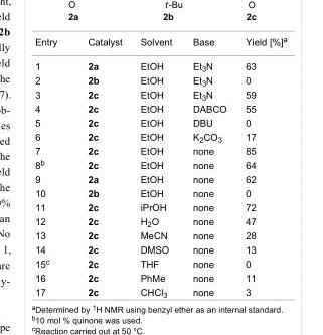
<table><tbody><tr><td>Entry</td><td>Catalyst</td><td>Solvent</td><td>Base</td><td>Yield [%]<sup>a</sup></td></tr><tr><td>1</td><td>2a</td><td>EtOH</td><td>Et<sub>3</sub>N</td><td>63</td></tr><tr><td>2</td><td>2b</td><td>EtOH</td><td>Et<sub>3</sub>N</td><td>0</td></tr><tr><td>3</td><td>2c</td><td>EtOH</td><td>Et<sub>3</sub>N</td><td>59</td></tr><tr><td>4</td><td>2c</td><td>EtOH</td><td>DABCO</td><td>55</td></tr><tr><td>5</td><td>2c</td><td>EtOH</td><td>DBU</td><td>0</td></tr><tr><td>6</td><td>2c</td><td>EtOH</td><td>K<sub>2</sub>CO<sub>3</sub></td><td>17</td></tr><tr><td>7</td><td>2c</td><td>EtOH</td><td>none</td><td>85</td></tr><tr><td>8<sup>b</sup></td><td>2c</td><td>EtOH</td><td>none</td><td>64</td></tr><tr><td>9</td><td>2a</td><td>EtOH</td><td>none</td><td>62</td></tr><tr><td>10</td><td>2b</td><td>EtOH</td><td>none</td><td>0</td></tr><tr><td>11</td><td>2c</td><td>iPrOH</td><td>none</td><td>72</td></tr><tr><td>12</td><td>2c</td><td>H<sub>2</sub>O</td><td>none</td><td>47</td></tr><tr><td>13</td><td>2c</td><td>MeCN</td><td>none</td><td>28</td></tr><tr><td>14</td><td>2c</td><td>DMSO</td><td>none</td><td>13</td></tr><tr><td>15<sup>c</sup></td><td>2c</td><td>THF</td><td>none</td><td>0</td></tr><tr><td>16</td><td>2c</td><td>PhMe</td><td>none</td><td>11</td></tr><tr><td>17</td><td>2c</td><td>CHCl<sub>3</sub></td><td>none</td><td>3</td></tr></tbody></table>